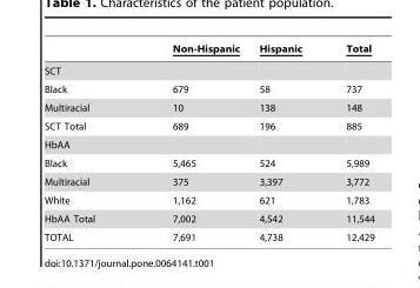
<table><thead><tr><td></td><td>Non-Hispanic</td><td>Hispanic</td><td>Total</td></tr></thead><tbody><tr><td colspan="4">SCT</td></tr><tr><td>Black</td><td>679</td><td>58</td><td>737</td></tr><tr><td>Multiracial</td><td>10</td><td>138</td><td>148</td></tr><tr><td>SCT Total</td><td>689</td><td>196</td><td>885</td></tr><tr><td colspan="4">HbAA</td></tr><tr><td>Black</td><td>5,465</td><td>524</td><td>5,989</td></tr><tr><td>Multiracial</td><td>375</td><td>3,397</td><td>3,772</td></tr><tr><td>White</td><td>1,162</td><td>621</td><td>1,783</td></tr><tr><td>HbAA Total</td><td>7,002</td><td>4,542</td><td>11,544</td></tr><tr><td>TOTAL</td><td>7,691</td><td>4,738</td><td>12,429</td></tr></tbody></table>